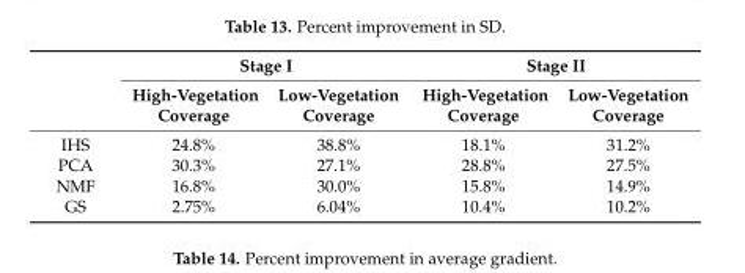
<table><thead><tr><td rowspan="2"></td><td colspan="2">Stage I</td><td colspan="2">Stage II</td></tr><tr><td>High-Vegetation Coverage</td><td>Low-Vegetation Coverage</td><td>High-Vegetation Coverage</td><td>Low-Vegetation Coverage</td></tr></thead><tbody><tr><td>IHS</td><td>24.8%</td><td>38.8%</td><td>18.1%</td><td>31.2%</td></tr><tr><td>PCA</td><td>30.3%</td><td>27.1%</td><td>28.8%</td><td>27.5%</td></tr><tr><td>NMF</td><td>16.8%</td><td>30.0%</td><td>15.8%</td><td>14.9%</td></tr><tr><td>GS</td><td>2.75%</td><td>6.04%</td><td>10.4%</td><td>10.2%</td></tr></tbody></table>